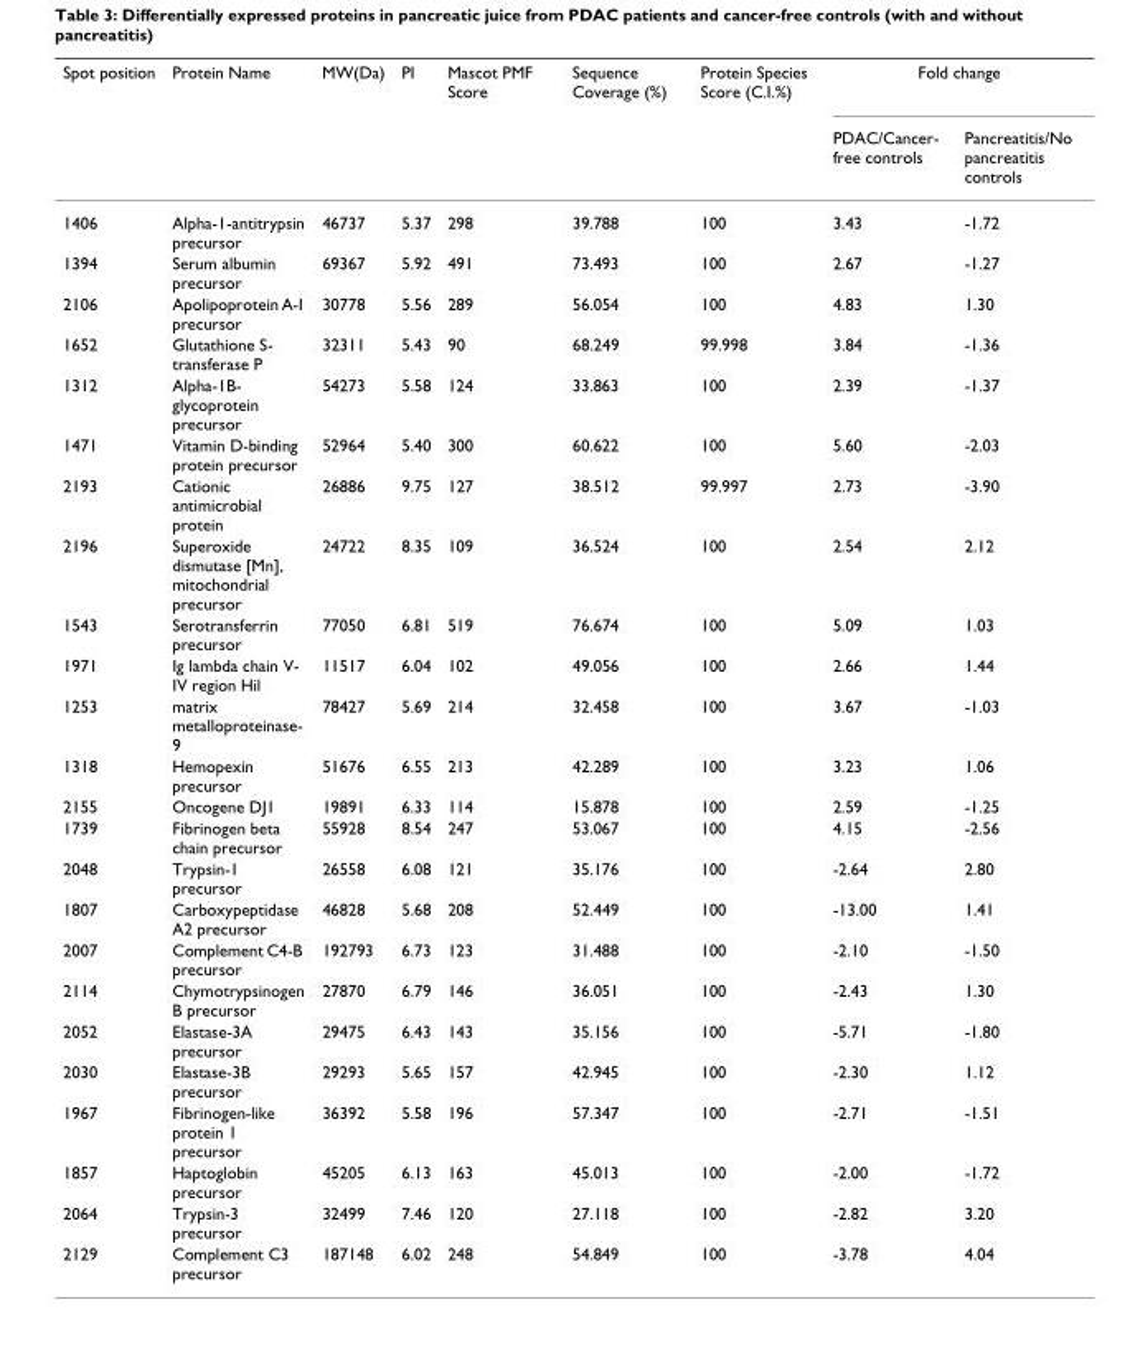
<table><thead><tr><td rowspan="2">Spot position</td><td rowspan="2">Protein Name</td><td rowspan="2">MW(Da)</td><td rowspan="2">PI</td><td rowspan="2">Mascot PMF Score</td><td rowspan="2">Sequence Coverage (%)</td><td rowspan="2">Protein Species Score (C.I.%)</td><td colspan="2">Fold change</td></tr><tr><td>PDAC/Cancer- free controls</td><td>Pancreatitis/No pancreatitis controls</td></tr></thead><tbody><tr><td>1406</td><td>Alpha-1-antitrypsin precursor</td><td>46737</td><td>5.37</td><td>298</td><td>39.788</td><td>100</td><td>3.43</td><td>-1.72</td></tr><tr><td>1394</td><td>Serum albumin precursor</td><td>69367</td><td>5.92</td><td>491</td><td>73.493</td><td>100</td><td>2.67</td><td>-1.27</td></tr><tr><td>2106</td><td>Apolipoprotein A-I precursor</td><td>30778</td><td>5.56</td><td>289</td><td>56.054</td><td>100</td><td>4.83</td><td>1.30</td></tr><tr><td>1652</td><td>Glutathione S- transferase P</td><td>32311</td><td>5.43</td><td>90</td><td>68.249</td><td>99.998</td><td>3.84</td><td>-1.36</td></tr><tr><td>1312</td><td>Alpha-1B- glycoprotein precursor</td><td>54273</td><td>5.58</td><td>124</td><td>33.863</td><td>100</td><td>2.39</td><td>-1.37</td></tr><tr><td>1471</td><td>Vitamin D-binding protein precursor</td><td>52964</td><td>5.40</td><td>300</td><td>60.622</td><td>100</td><td>5.60</td><td>-2.03</td></tr><tr><td>2193</td><td>Cationic antimicrobial protein</td><td>26886</td><td>9.75</td><td>127</td><td>38.512</td><td>99.997</td><td>2.73</td><td>-3.90</td></tr><tr><td>2196</td><td>Superoxide dismutase [Mn], mitochondrial precursor</td><td>24722</td><td>8.35</td><td>109</td><td>36.524</td><td>100</td><td>2.54</td><td>2.12</td></tr><tr><td>1543</td><td>Serotransferrin precursor</td><td>77050</td><td>6.81</td><td>519</td><td>76.674</td><td>100</td><td>5.09</td><td>1.03</td></tr><tr><td>1971</td><td>Ig lambda chain V- IV region Hil</td><td>11517</td><td>6.04</td><td>102</td><td>49.056</td><td>100</td><td>2.66</td><td>1.44</td></tr><tr><td>1253</td><td>matrix metalloproteinase- 9</td><td>78427</td><td>5.69</td><td>214</td><td>32.458</td><td>100</td><td>3.67</td><td>-1.03</td></tr><tr><td>1318</td><td>Hemopexin precursor</td><td>51676</td><td>6.55</td><td>213</td><td>42.289</td><td>100</td><td>3.23</td><td>1.06</td></tr><tr><td>2155</td><td>Oncogene DJ1</td><td>19891</td><td>6.33</td><td>114</td><td>15.878</td><td>100</td><td>2.59</td><td>-1.25</td></tr><tr><td>1739</td><td>Fibrinogen beta chain precursor</td><td>55928</td><td>8.54</td><td>247</td><td>53.067</td><td>100</td><td>4.15</td><td>-2.56</td></tr><tr><td>2048</td><td>Trypsin-1 precursor</td><td>26558</td><td>6.08</td><td>121</td><td>35.176</td><td>100</td><td>-2.64</td><td>2.80</td></tr><tr><td>1807</td><td>Carboxypeptidase A2 precursor</td><td>46828</td><td>5.68</td><td>208</td><td>52.449</td><td>100</td><td>-13.00</td><td>1.41</td></tr><tr><td>2007</td><td>Complement C4-B precursor</td><td>192793</td><td>6.73</td><td>123</td><td>31.488</td><td>100</td><td>-2.10</td><td>-1.50</td></tr><tr><td>2114</td><td>Chymotrypsinogen B precursor</td><td>27870</td><td>6.79</td><td>146</td><td>36.051</td><td>100</td><td>-2.43</td><td>1.30</td></tr><tr><td>2052</td><td>Elastase-3A precursor</td><td>29475</td><td>6.43</td><td>143</td><td>35.156</td><td>100</td><td>-5.71</td><td>-1.80</td></tr><tr><td>2030</td><td>Elastase-3B precursor</td><td>29293</td><td>5.65</td><td>157</td><td>42.945</td><td>100</td><td>-2.30</td><td>1.12</td></tr><tr><td>1967</td><td>Fibrinogen-like protein 1 precursor</td><td>36392</td><td>5.58</td><td>196</td><td>57.347</td><td>100</td><td>-2.71</td><td>-1.51</td></tr><tr><td>1857</td><td>Haptoglobin precursor</td><td>45205</td><td>6.13</td><td>163</td><td>45.013</td><td>100</td><td>-2.00</td><td>-1.72</td></tr><tr><td>2064</td><td>Trypsin-3 precursor</td><td>32499</td><td>7.46</td><td>120</td><td>27.118</td><td>100</td><td>-2.82</td><td>3.20</td></tr><tr><td>2129</td><td>Complement C3 precursor</td><td>187148</td><td>6.02</td><td>248</td><td>54.849</td><td>100</td><td>-3.78</td><td>4.04</td></tr></tbody></table>